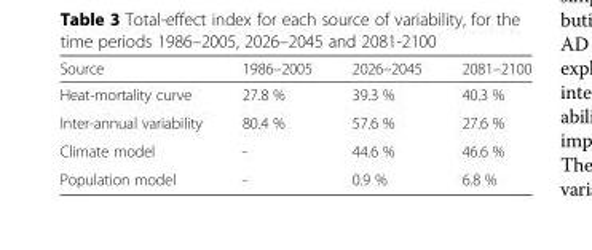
<table><thead><tr><td>Source</td><td>1986–2005</td><td>2026–2045</td><td>2081–2100</td></tr></thead><tbody><tr><td>Heat-mortality curve</td><td>27.8 %</td><td>39.3 %</td><td>40.3 %</td></tr><tr><td>Inter-annual variability</td><td>80.4 %</td><td>57.6 %</td><td>27.6 %</td></tr><tr><td>Climate model</td><td>-</td><td>44.6 %</td><td>46.6 %</td></tr><tr><td>Population model</td><td>-</td><td>0.9 %</td><td>6.8 %</td></tr></tbody></table>